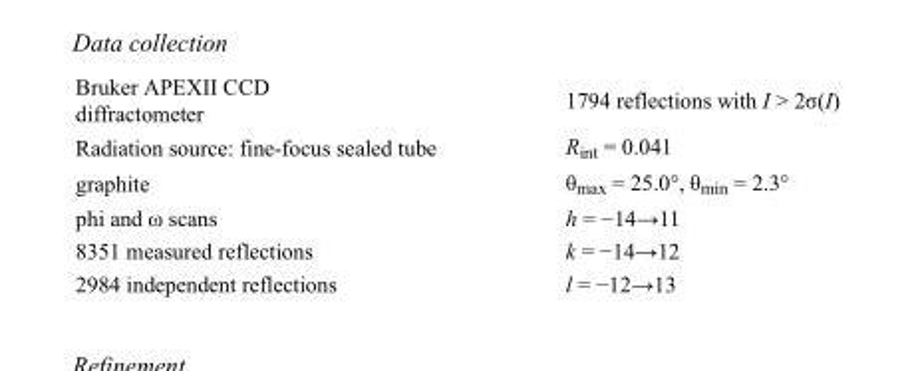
<table><tbody><tr><td>Bruker APEXII CCD diffractometer</td><td>1794 reflections with I &gt; 2σ(I)</td></tr><tr><td>Radiation source: fine-focus sealed tube</td><td>R<sub>int</sub> = 0.041</td></tr><tr><td>graphite</td><td>θ<sub>max</sub> = 25.0°, θ<sub>min</sub> = 2.3°</td></tr><tr><td>phi and ω scans</td><td>h = −14→11</td></tr><tr><td>8351 measured reflections</td><td>k = −14→12</td></tr><tr><td>2984 independent reflections</td><td>l = −12→13</td></tr></tbody></table>